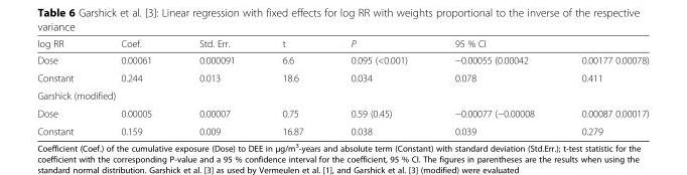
<table><thead><tr><td rowspan="2">log RR Dose</td><td rowspan="2">Coef. 0.00061</td><td rowspan="2">Std. Err. 0.000091</td><td rowspan="2">t 6.6</td><td rowspan="2">P 0.095 (&lt;0.001)</td><td colspan="2">95 % CI</td></tr><tr><td>−0.00055 (0.00042</td><td>0.00177 0.00078)</td></tr></thead><tbody><tr><td>Constant</td><td>0.244</td><td>0.013</td><td>18.6</td><td>0.034</td><td>0.078</td><td>0.411</td></tr><tr><td colspan="7">Garshick (modified)</td></tr><tr><td>Dose</td><td>0.00005</td><td>0.00007</td><td>0.75</td><td>0.59 (0.45)</td><td>−0.00077 (−0.00008</td><td>0.00087 0.00017)</td></tr><tr><td>Constant</td><td>0.159</td><td>0.009</td><td>16.87</td><td>0.038</td><td>0.039</td><td>0.279</td></tr></tbody></table>